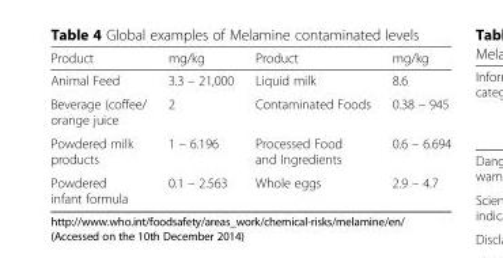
<table><thead><tr><td>Product</td><td>mg/kg</td><td>Product</td><td>mg/kg</td></tr></thead><tbody><tr><td>Animal Feed</td><td>3.3 – 21,000</td><td>Liquid milk</td><td>8.6</td></tr><tr><td>Beverage (coffee/ orange juice</td><td>2</td><td>Contaminated Foods</td><td>0.38 – 945</td></tr><tr><td>Powdered milk products</td><td>1 – 6.196</td><td>Processed Food and Ingredients</td><td>0.6 – 6.694</td></tr><tr><td>Powdered infant formula</td><td>0.1 – 2.563</td><td>Whole eggs</td><td>2.9 – 4.7</td></tr></tbody></table>